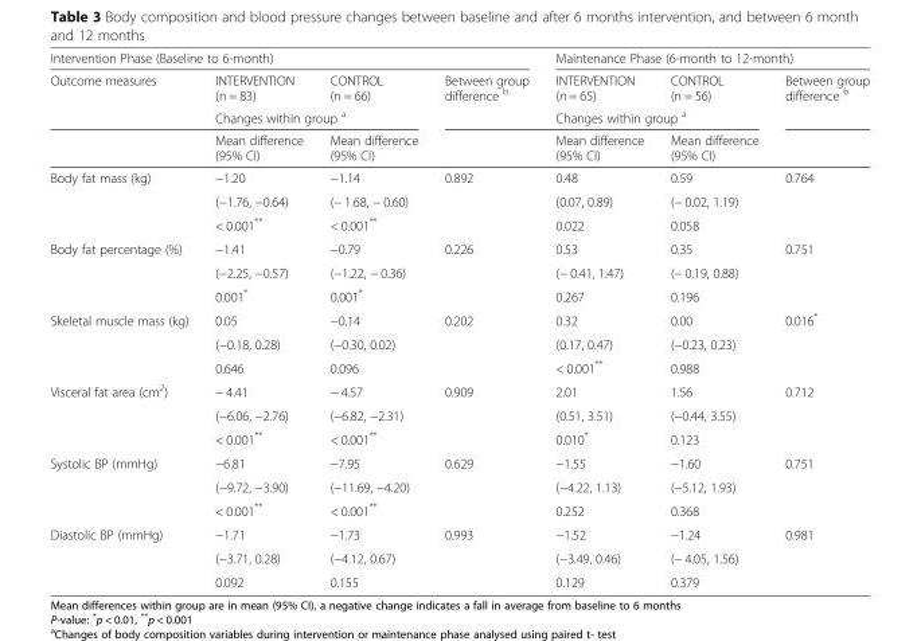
<table><thead><tr><td colspan="4">Intervention Phase (Baseline to 6-month)</td><td colspan="3">Maintenance Phase (6-month to 12-month)</td></tr><tr><td rowspan="3">Outcome measures</td><td>INTERVENTION (n = 83)</td><td>CONTROL (n = 66)</td><td rowspan="3">Between group difference <sup>b</sup></td><td>INTERVENTION (n = 65)</td><td>CONTROL (n = 56)</td><td rowspan="3">Between group difference <sup>b</sup></td></tr><tr><td colspan="2">Changes within group <sup>a</sup></td><td colspan="2">Changes within group <sup>a</sup></td></tr><tr><td>Mean difference (95% CI)</td><td>Mean difference (95% CI)</td><td>Mean difference (95% CI)</td><td>Mean difference (95% CI)</td></tr></thead><tbody><tr><td rowspan="3">Body fat mass (kg)</td><td>−1.20</td><td>−1.14</td><td rowspan="3">0.892</td><td>0.48</td><td>0.59</td><td rowspan="3">0.764</td></tr><tr><td>(−1.76, −0.64)</td><td>(− 1.68, − 0.60)</td><td>(0.07, 0.89)</td><td>(− 0.02, 1.19)</td></tr><tr><td>&lt; 0.001**</td><td>&lt; 0.001**</td><td>0.022</td><td>0.058</td></tr><tr><td rowspan="3">Body fat percentage (%)</td><td>−1.41</td><td>−0.79</td><td rowspan="3">0.226</td><td>0.53</td><td>0.35</td><td rowspan="3">0.751</td></tr><tr><td>(−2.25, −0.57)</td><td>(−1.22, − 0.36)</td><td>(− 0.41, 1.47)</td><td>(− 0.19, 0.88)</td></tr><tr><td>0.001*</td><td>0.001*</td><td>0.267</td><td>0.196</td></tr><tr><td rowspan="3">Skeletal muscle mass (kg)</td><td>0.05</td><td>−0.14</td><td rowspan="3">0.202</td><td>0.32</td><td>0.00</td><td rowspan="3">0.016*</td></tr><tr><td>(−0.18, 0.28)</td><td>(−0.30, 0.02)</td><td>(0.17, 0.47)</td><td>(−0.23, 0.23)</td></tr><tr><td>0.646</td><td>0.096</td><td>&lt; 0.001**</td><td>0.988</td></tr><tr><td rowspan="3">Visceral fat area (cm<sup>2</sup>)</td><td>− 4.41</td><td>− 4.57</td><td rowspan="3">0.909</td><td>2.01</td><td>1.56</td><td rowspan="3">0.712</td></tr><tr><td>(−6.06, −2.76)</td><td>(−6.82, −2.31)</td><td>(0.51, 3.51)</td><td>(−0.44, 3.55)</td></tr><tr><td>&lt; 0.001**</td><td>&lt; 0.001**</td><td>0.010*</td><td>0.123</td></tr><tr><td rowspan="3">Systolic BP (mmHg)</td><td>−6.81</td><td>−7.95</td><td rowspan="3">0.629</td><td>−1.55</td><td>−1.60</td><td rowspan="3">0.751</td></tr><tr><td>(−9.72, −3.90)</td><td>(−11.69, −4.20)</td><td>(−4.22, 1.13)</td><td>(−5.12, 1.93)</td></tr><tr><td>&lt; 0.001**</td><td>&lt; 0.001**</td><td>0.252</td><td>0.368</td></tr><tr><td rowspan="3">Diastolic BP (mmHg)</td><td>−1.71</td><td>−1.73</td><td rowspan="3">0.993</td><td>−1.52</td><td>−1.24</td><td rowspan="3">0.981</td></tr><tr><td>(−3.71, 0.28)</td><td>(−4.12, 0.67)</td><td>(−3.49, 0.46)</td><td>(− 4.05, 1.56)</td></tr><tr><td>0.092</td><td>0.155</td><td>0.129</td><td>0.379</td></tr></tbody></table>